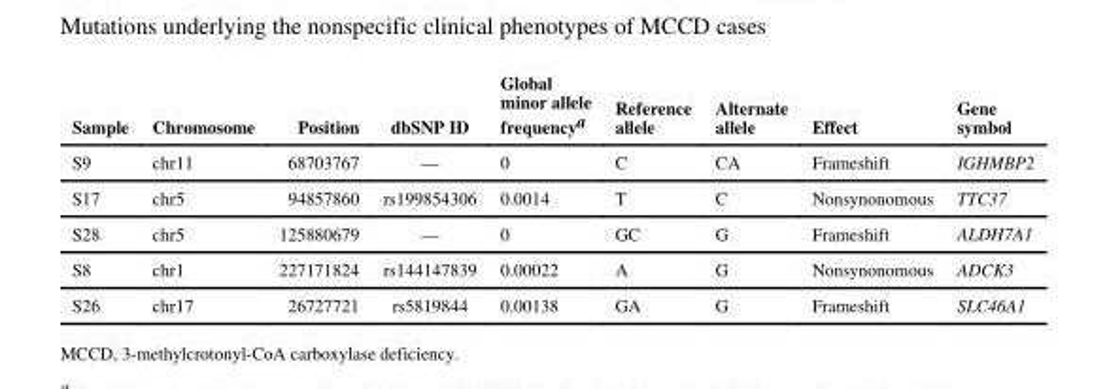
<table><thead><tr><td>Sample</td><td>Chromosome</td><td>Position</td><td>dbSNP ID</td><td>Global minor allele frequency<sup>a</sup></td><td>Reference allele</td><td>Alternate allele</td><td>Effect</td><td>Gene symbol</td></tr></thead><tbody><tr><td>S9</td><td>chr11</td><td>68703767</td><td>—</td><td>0</td><td>C</td><td>CA</td><td>Frameshift</td><td>IGHMBP2</td></tr><tr><td>S17</td><td>chr5</td><td>94857860</td><td>rs199854306</td><td>0.0014</td><td>T</td><td>C</td><td>Nonsynonomous</td><td>TTC37</td></tr><tr><td>S28</td><td>chr5</td><td>125880679</td><td>—</td><td>0</td><td>GC</td><td>G</td><td>Frameshift</td><td>ALDH7A1</td></tr><tr><td>S8</td><td>chr1</td><td>227171824</td><td>rs144147839</td><td>0.00022</td><td>A</td><td>G</td><td>Nonsynonomous</td><td>ADCK3</td></tr><tr><td>S26</td><td>chr17</td><td>26727721</td><td>rs5819844</td><td>0.00138</td><td>GA</td><td>G</td><td>Frameshift</td><td>SLC46A1</td></tr></tbody></table>